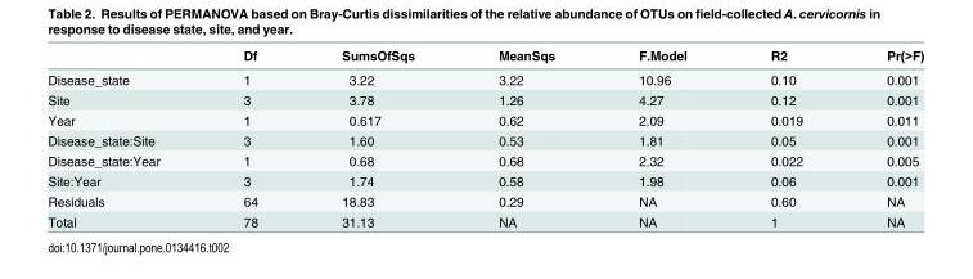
<table><thead><tr><td></td><td>Df</td><td>SumsOfSqs</td><td>MeanSqs</td><td>F.Model</td><td>R2</td><td>Pr(&gt;F)</td></tr></thead><tbody><tr><td>Disease_state</td><td>1</td><td>3.22</td><td>3.22</td><td>10.96</td><td>0.10</td><td>0.001</td></tr><tr><td>Site</td><td>3</td><td>3.78</td><td>1.26</td><td>4.27</td><td>0.12</td><td>0.001</td></tr><tr><td>Year</td><td>1</td><td>0.617</td><td>0.62</td><td>2.09</td><td>0.019</td><td>0.011</td></tr><tr><td>Disease_state:Site</td><td>3</td><td>1.60</td><td>0.53</td><td>1.81</td><td>0.05</td><td>0.001</td></tr><tr><td>Disease_state:Year</td><td>1</td><td>0.68</td><td>0.68</td><td>2.32</td><td>0.022</td><td>0.005</td></tr><tr><td>Site:Year</td><td>3</td><td>1.74</td><td>0.58</td><td>1.98</td><td>0.06</td><td>0.001</td></tr><tr><td>Residuals</td><td>64</td><td>18.83</td><td>0.29</td><td>NA</td><td>0.60</td><td>NA</td></tr><tr><td>Total</td><td>78</td><td>31.13</td><td>NA</td><td>NA</td><td>1</td><td>NA</td></tr></tbody></table>